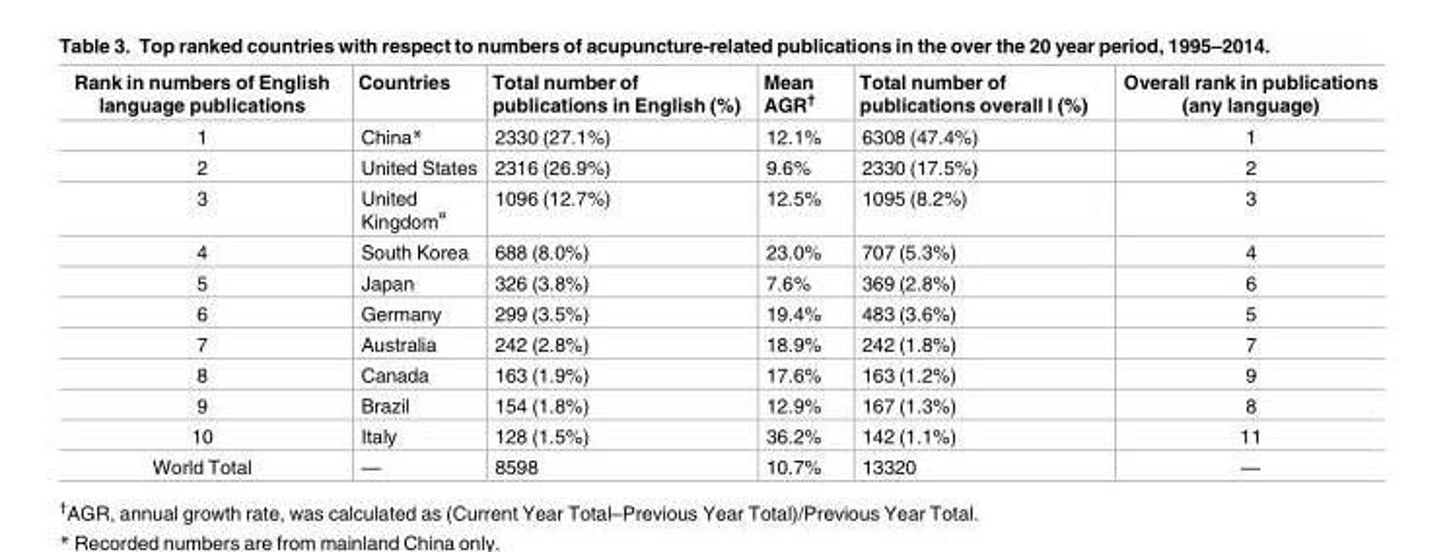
<table><thead><tr><td>Rank in numbers of English language publications</td><td>Countries</td><td>Total number of publications in English (%)</td><td>Mean AGR<sup>†</sup></td><td>Total number of publications overall l (%)</td><td>Overall rank in publications (any language)</td></tr></thead><tbody><tr><td>1</td><td>China*</td><td>2330 (27.1%)</td><td>12.1%</td><td>6308 (47.4%)</td><td>1</td></tr><tr><td>2</td><td>United States</td><td>2316 (26.9%)</td><td>9.6%</td><td>2330 (17.5%)</td><td>2</td></tr><tr><td>3</td><td>United Kingdom<sup>¤</sup></td><td>1096 (12.7%)</td><td>12.5%</td><td>1095 (8.2%)</td><td>3</td></tr><tr><td>4</td><td>South Korea</td><td>688 (8.0%)</td><td>23.0%</td><td>707 (5.3%)</td><td>4</td></tr><tr><td>5</td><td>Japan</td><td>326 (3.8%)</td><td>7.6%</td><td>369 (2.8%)</td><td>6</td></tr><tr><td>6</td><td>Germany</td><td>299 (3.5%)</td><td>19.4%</td><td>483 (3.6%)</td><td>5</td></tr><tr><td>7</td><td>Australia</td><td>242 (2.8%)</td><td>18.9%</td><td>242 (1.8%)</td><td>7</td></tr><tr><td>8</td><td>Canada</td><td>163 (1.9%)</td><td>17.6%</td><td>163 (1.2%)</td><td>9</td></tr><tr><td>9</td><td>Brazil</td><td>154 (1.8%)</td><td>12.9%</td><td>167 (1.3%)</td><td>8</td></tr><tr><td>10</td><td>Italy</td><td>128 (1.5%)</td><td>36.2%</td><td>142 (1.1%)</td><td>11</td></tr><tr><td>World Total</td><td>—</td><td>8598</td><td>10.7%</td><td>13320</td><td>—</td></tr></tbody></table>